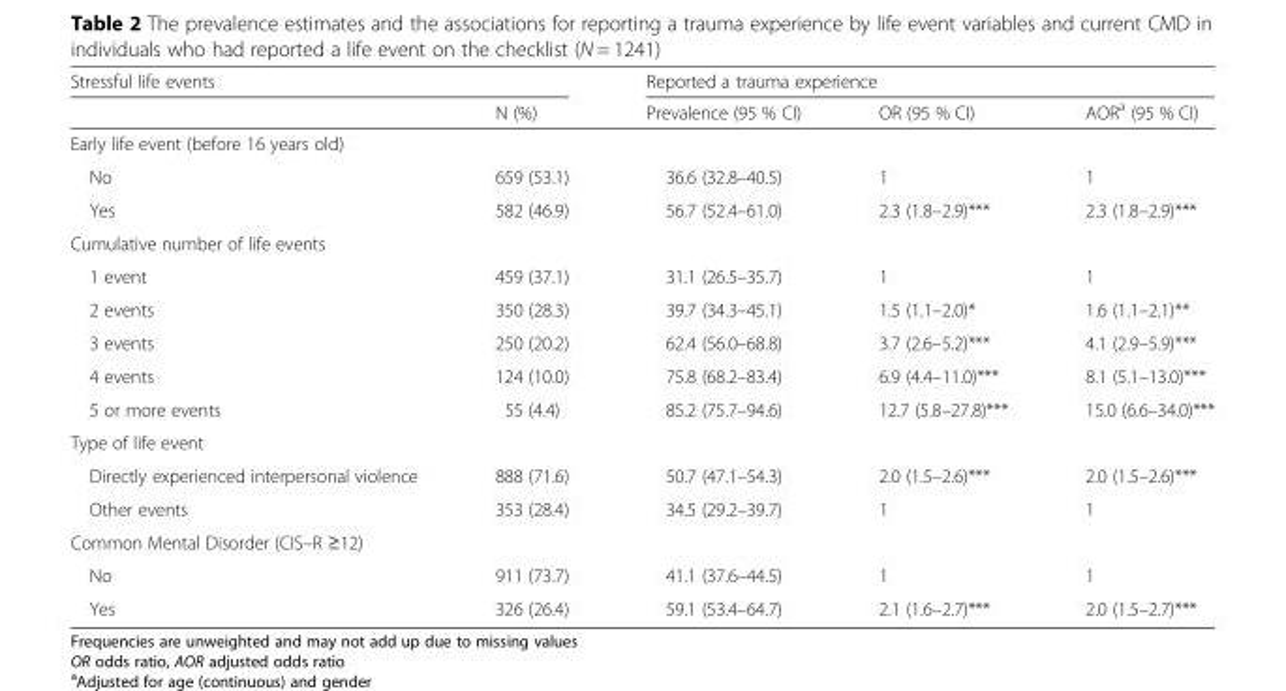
<table><thead><tr><td colspan="2">Stressful life events</td><td colspan="3">Reported a trauma experience</td></tr><tr><td></td><td>N (%)</td><td>Prevalence (95 % CI)</td><td>OR (95 % CI)</td><td>AOR<sup>a</sup> (95 % CI)</td></tr></thead><tbody><tr><td colspan="5">Early life event (before 16 years old)</td></tr><tr><td>No</td><td>659 (53.1)</td><td>36.6 (32.8–40.5)</td><td>1</td><td>1</td></tr><tr><td>Yes</td><td>582 (46.9)</td><td>56.7 (52.4–61.0)</td><td>2.3 (1.8–2.9)***</td><td>2.3 (1.8–2.9)***</td></tr><tr><td colspan="5">Cumulative number of life events</td></tr><tr><td>1 event</td><td>459 (37.1)</td><td>31.1 (26.5–35.7)</td><td>1</td><td>1</td></tr><tr><td>2 events</td><td>350 (28.3)</td><td>39.7 (34.3–45.1)</td><td>1.5 (1.1–2.0)*</td><td>1.6 (1.1–2.1)**</td></tr><tr><td>3 events</td><td>250 (20.2)</td><td>62.4 (56.0–68.8)</td><td>3.7 (2.6–5.2)***</td><td>4.1 (2.9–5.9)***</td></tr><tr><td>4 events</td><td>124 (10.0)</td><td>75.8 (68.2–83.4)</td><td>6.9 (4.4–11.0)***</td><td>8.1 (5.1–13.0)***</td></tr><tr><td>5 or more events</td><td>55 (4.4)</td><td>85.2 (75.7–94.6)</td><td>12.7 (5.8–27.8)***</td><td>15.0 (6.6–34.0)***</td></tr><tr><td colspan="5">Type of life event</td></tr><tr><td>Directly experienced interpersonal violence</td><td>888 (71.6)</td><td>50.7 (47.1–54.3)</td><td>2.0 (1.5–2.6)***</td><td>2.0 (1.5–2.6)***</td></tr><tr><td>Other events</td><td>353 (28.4)</td><td>34.5 (29.2–39.7)</td><td>1</td><td>1</td></tr><tr><td colspan="5">Common Mental Disorder (CIS–R ≥12)</td></tr><tr><td>No</td><td>911 (73.7)</td><td>41.1 (37.6–44.5)</td><td>1</td><td>1</td></tr><tr><td>Yes</td><td>326 (26.4)</td><td>59.1 (53.4–64.7)</td><td>2.1 (1.6–2.7)***</td><td>2.0 (1.5–2.7)***</td></tr></tbody></table>